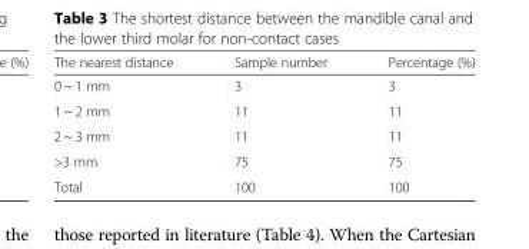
<table><thead><tr><td>The nearest distance</td><td>Sample number</td><td>Percentage (%)</td></tr></thead><tbody><tr><td>0 ~ 1 mm</td><td>3</td><td>3</td></tr><tr><td>1 ~ 2 mm</td><td>11</td><td>11</td></tr><tr><td>2 ~ 3 mm</td><td>11</td><td>11</td></tr><tr><td>&gt;3 mm</td><td>75</td><td>75</td></tr><tr><td>Total</td><td>100</td><td>100</td></tr></tbody></table>